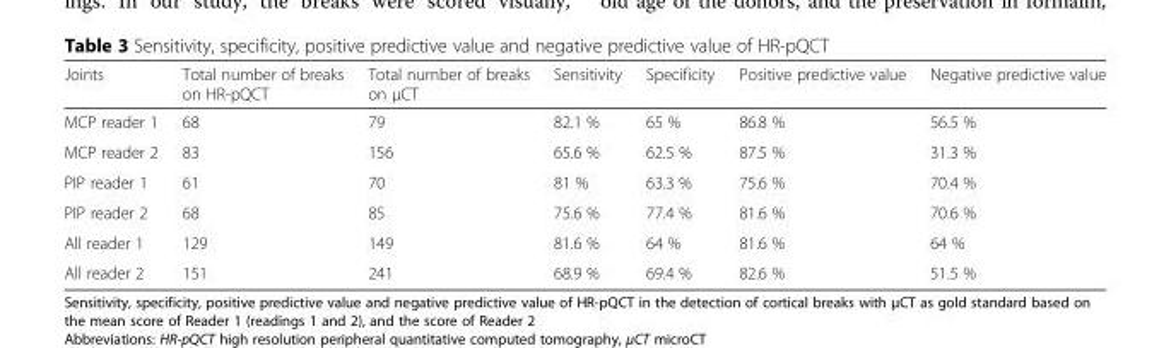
<table><thead><tr><td>Joints</td><td>Total number of breaks on HR-pQCT</td><td>Total number of breaks on μCT</td><td>Sensitivity</td><td>Specificity</td><td>Positive predictive value</td><td>Negative predictive value</td></tr></thead><tbody><tr><td>MCP reader 1</td><td>68</td><td>79</td><td>82.1 %</td><td>65 %</td><td>86.8 %</td><td>56.5 %</td></tr><tr><td>MCP reader 2</td><td>83</td><td>156</td><td>65.6 %</td><td>62.5 %</td><td>87.5 %</td><td>31.3 %</td></tr><tr><td>PIP reader 1</td><td>61</td><td>70</td><td>81 %</td><td>63.3 %</td><td>75.6 %</td><td>70.4 %</td></tr><tr><td>PIP reader 2</td><td>68</td><td>85</td><td>75.6 %</td><td>77.4 %</td><td>81.6 %</td><td>70.6 %</td></tr><tr><td>All reader 1</td><td>129</td><td>149</td><td>81.6 %</td><td>64 %</td><td>81.6 %</td><td>64 %</td></tr><tr><td>All reader 2</td><td>151</td><td>241</td><td>68.9 %</td><td>69.4 %</td><td>82.6 %</td><td>51.5 %</td></tr></tbody></table>